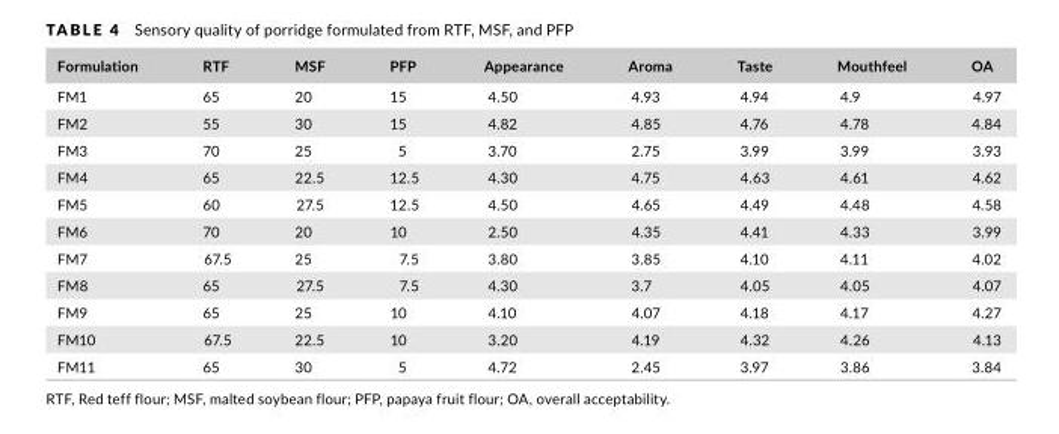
<table><thead><tr><td>Formulation</td><td>RTF</td><td>MSF</td><td>PFP</td><td>Appearance</td><td>Aroma</td><td>Taste</td><td>Mouthfeel</td><td>OA</td></tr></thead><tbody><tr><td>FM1</td><td>65</td><td>20</td><td>15</td><td>4.50</td><td>4.93</td><td>4.94</td><td>4.9</td><td>4.97</td></tr><tr><td>FM2</td><td>55</td><td>30</td><td>15</td><td>4.82</td><td>4.85</td><td>4.76</td><td>4.78</td><td>4.84</td></tr><tr><td>FM3</td><td>70</td><td>25</td><td>5</td><td>3.70</td><td>2.75</td><td>3.99</td><td>3.99</td><td>3.93</td></tr><tr><td>FM4</td><td>65</td><td>22.5</td><td>12.5</td><td>4.30</td><td>4.75</td><td>4.63</td><td>4.61</td><td>4.62</td></tr><tr><td>FM5</td><td>60</td><td>27.5</td><td>12.5</td><td>4.50</td><td>4.65</td><td>4.49</td><td>4.48</td><td>4.58</td></tr><tr><td>FM6</td><td>70</td><td>20</td><td>10</td><td>2.50</td><td>4.35</td><td>4.41</td><td>4.33</td><td>3.99</td></tr><tr><td>FM7</td><td>67.5</td><td>25</td><td>7.5</td><td>3.80</td><td>3.85</td><td>4.10</td><td>4.11</td><td>4.02</td></tr><tr><td>FM8</td><td>65</td><td>27.5</td><td>7.5</td><td>4.30</td><td>3.7</td><td>4.05</td><td>4.05</td><td>4.07</td></tr><tr><td>FM9</td><td>65</td><td>25</td><td>10</td><td>4.10</td><td>4.07</td><td>4.18</td><td>4.17</td><td>4.27</td></tr><tr><td>FM10</td><td>67.5</td><td>22.5</td><td>10</td><td>3.20</td><td>4.19</td><td>4.32</td><td>4.26</td><td>4.13</td></tr><tr><td>FM11</td><td>65</td><td>30</td><td>5</td><td>4.72</td><td>2.45</td><td>3.97</td><td>3.86</td><td>3.84</td></tr></tbody></table>